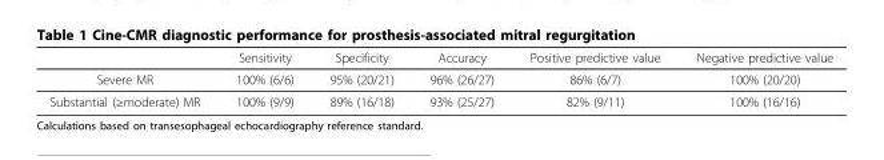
<table><thead><tr><td></td><td>Sensitivity</td><td>Specificity</td><td>Accuracy</td><td>Positive predictive value</td><td>Negative predictive value</td></tr></thead><tbody><tr><td>Severe MR</td><td>100% (6/6)</td><td>95% (20/21)</td><td>96% (26/27)</td><td>86% (6/7)</td><td>100% (20/20)</td></tr><tr><td>Substantial (≥moderate) MR</td><td>100% (9/9)</td><td>89% (16/18)</td><td>93% (25/27)</td><td>82% (9/11)</td><td>100% (16/16)</td></tr></tbody></table>